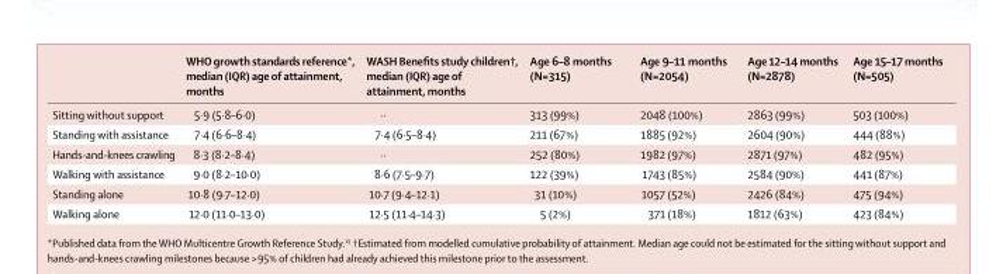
<table><thead><tr><td></td><td>WHO growth standards reference*, median (IQR) age of attainment, months</td><td>WASH Benefits study children†, median (IQR) age of attainment, months</td><td>Age 6–8 months (N=315)</td><td>Age 9–11 months (N=2054)</td><td>Age 12–14 months (N=2878)</td><td>Age 15–17 months (N=505)</td></tr></thead><tbody><tr><td>Sitting without support</td><td>5·9 (5·8–6·0)</td><td>··</td><td>313 (99%)</td><td>2048 (100%)</td><td>2863 (99%)</td><td>503 (100%)</td></tr><tr><td>Standing with assistance</td><td>7·4 (6·6–8·4)</td><td>7·4 (6·5–8·4)</td><td>211 (67%)</td><td>1885 (92%)</td><td>2604 (90%)</td><td>444 (88%)</td></tr><tr><td>Hands-and-knees crawling</td><td>8·3 (8·2–8·4)</td><td>··</td><td>252 (80%)</td><td>1982 (97%)</td><td>2871 (97%)</td><td>482 (95%)</td></tr><tr><td>Walking with assistance</td><td>9·0 (8·2–10·0)</td><td>8·6 (7·5–9·7)</td><td>122 (39%)</td><td>1743 (85%)</td><td>2584 (90%)</td><td>441 (87%)</td></tr><tr><td>Standing alone</td><td>10·8 (9·7–12·0)</td><td>10·7 (9·4–12·1)</td><td>31 (10%)</td><td>1057 (52%)</td><td>2426 (84%)</td><td>475 (94%)</td></tr><tr><td>Walking alone</td><td>12·0 (11·0–13·0)</td><td>12·5 (11·4–14·3)</td><td>5 (2%)</td><td>371 (18%)</td><td>1812 (63%)</td><td>423 (84%)</td></tr></tbody></table>